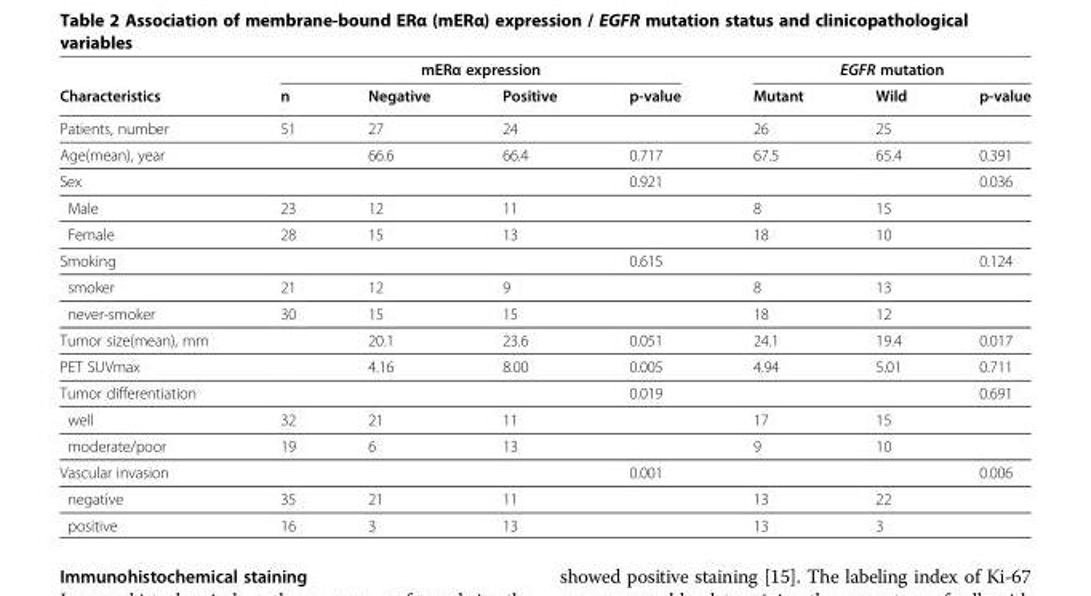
<table><thead><tr><td rowspan="2">Characteristics</td><td colspan="4">mERα expression</td><td colspan="3">EGFR mutation</td></tr><tr><td>n</td><td>Negative</td><td>Positive</td><td>p-value</td><td>Mutant</td><td>Wild</td><td>p-value</td></tr></thead><tbody><tr><td>Patients, number</td><td>51</td><td>27</td><td>24</td><td></td><td>26</td><td>25</td><td></td></tr><tr><td>Age(mean), year</td><td></td><td>66.6</td><td>66.4</td><td>0.717</td><td>67.5</td><td>65.4</td><td>0.391</td></tr><tr><td>Sex</td><td></td><td></td><td></td><td>0.921</td><td></td><td></td><td>0.036</td></tr><tr><td>Male</td><td>23</td><td>12</td><td>11</td><td></td><td>8</td><td>15</td><td></td></tr><tr><td>Female</td><td>28</td><td>15</td><td>13</td><td></td><td>18</td><td>10</td><td></td></tr><tr><td>Smoking</td><td></td><td></td><td></td><td>0.615</td><td></td><td></td><td>0.124</td></tr><tr><td>smoker</td><td>21</td><td>12</td><td>9</td><td></td><td>8</td><td>13</td><td></td></tr><tr><td>never-smoker</td><td>30</td><td>15</td><td>15</td><td></td><td>18</td><td>12</td><td></td></tr><tr><td>Tumor size(mean), mm</td><td></td><td>20.1</td><td>23.6</td><td>0.051</td><td>24.1</td><td>19.4</td><td>0.017</td></tr><tr><td>PET SUVmax</td><td></td><td>4.16</td><td>8.00</td><td>0.005</td><td>4.94</td><td>5.01</td><td>0.711</td></tr><tr><td>Tumor differentiation</td><td></td><td></td><td></td><td>0.019</td><td></td><td></td><td>0.691</td></tr><tr><td>well</td><td>32</td><td>21</td><td>11</td><td></td><td>17</td><td>15</td><td></td></tr><tr><td>moderate/poor</td><td>19</td><td>6</td><td>13</td><td></td><td>9</td><td>10</td><td></td></tr><tr><td>Vascular invasion</td><td></td><td></td><td></td><td>0.001</td><td></td><td></td><td>0.006</td></tr><tr><td>negative</td><td>35</td><td>21</td><td>11</td><td></td><td>13</td><td>22</td><td></td></tr><tr><td>positive</td><td>16</td><td>3</td><td>13</td><td></td><td>13</td><td>3</td><td></td></tr></tbody></table>